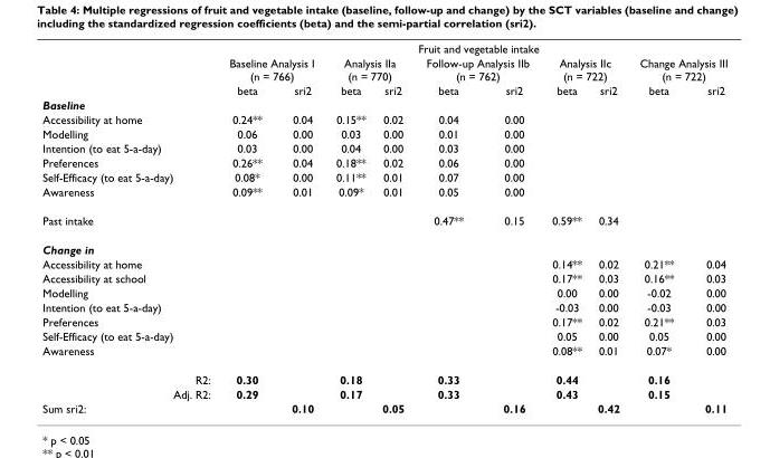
<table><thead><tr><td rowspan="3"></td><td colspan="10">Fruit and vegetable intake</td></tr><tr><td colspan="2">Baseline Analysis I (n = 766)</td><td colspan="2">Analysis IIa (n = 770)</td><td colspan="2">Follow-up Analysis IIb (n = 762)</td><td colspan="2">Analysis IIc (n = 722)</td><td colspan="2">Change Analysis III (n = 722)</td></tr><tr><td>beta</td><td>sri2</td><td>beta</td><td>sri2</td><td>beta</td><td>sri2</td><td>beta</td><td>sri2</td><td>beta</td><td>sri2</td></tr></thead><tbody><tr><td colspan="11">Baseline</td></tr><tr><td>Accessibility at home</td><td>0.24**</td><td>0.04</td><td>0.15**</td><td>0.02</td><td>0.04</td><td>0.00</td><td></td><td></td><td></td><td></td></tr><tr><td>Modelling</td><td>0.06</td><td>0.00</td><td>0.03</td><td>0.00</td><td>0.01</td><td>0.00</td><td></td><td></td><td></td><td></td></tr><tr><td>Intention (to eat 5-a-day)</td><td>0.03</td><td>0.00</td><td>0.04</td><td>0.00</td><td>0.03</td><td>0.00</td><td></td><td></td><td></td><td></td></tr><tr><td>Preferences</td><td>0.26**</td><td>0.04</td><td>0.18**</td><td>0.02</td><td>0.06</td><td>0.00</td><td></td><td></td><td></td><td></td></tr><tr><td>Self-Efficacy (to eat 5-a-day)</td><td>0.08*</td><td>0.00</td><td>0.11**</td><td>0.01</td><td>0.07</td><td>0.00</td><td></td><td></td><td></td><td></td></tr><tr><td>Awareness</td><td>0.09**</td><td>0.01</td><td>0.09*</td><td>0.01</td><td>0.05</td><td>0.00</td><td></td><td></td><td></td><td></td></tr><tr><td>Past intake</td><td></td><td></td><td></td><td></td><td>0.47**</td><td>0.15</td><td>0.59**</td><td>0.34</td><td></td><td></td></tr><tr><td colspan="11">Change in</td></tr><tr><td>Accessibility at home</td><td></td><td></td><td></td><td></td><td></td><td></td><td>0.14**</td><td>0.02</td><td>0.21**</td><td>0.04</td></tr><tr><td>Accessibility at school</td><td></td><td></td><td></td><td></td><td></td><td></td><td>0.17**</td><td>0.03</td><td>0.16**</td><td>0.03</td></tr><tr><td>Modelling</td><td></td><td></td><td></td><td></td><td></td><td></td><td>0.00</td><td>0.00</td><td>-0.02</td><td>0.00</td></tr><tr><td>Intention (to eat 5-a-day)</td><td></td><td></td><td></td><td></td><td></td><td></td><td>-0.03</td><td>0.00</td><td>-0.03</td><td>0.00</td></tr><tr><td>Preferences</td><td></td><td></td><td></td><td></td><td></td><td></td><td>0.17**</td><td>0.02</td><td>0.21**</td><td>0.03</td></tr><tr><td>Self-Efficacy (to eat 5-a-day)</td><td></td><td></td><td></td><td></td><td></td><td></td><td>0.05</td><td>0.00</td><td>0.05</td><td>0.00</td></tr><tr><td>Awareness</td><td></td><td></td><td></td><td></td><td></td><td></td><td>0.08**</td><td>0.01</td><td>0.07*</td><td>0.00</td></tr><tr><td>R2:</td><td>0.30</td><td></td><td>0.18</td><td></td><td>0.33</td><td></td><td>0.44</td><td></td><td>0.16</td><td></td></tr><tr><td>Adj. R2:</td><td>0.29</td><td></td><td>0.17</td><td></td><td>0.33</td><td></td><td>0.43</td><td></td><td>0.15</td><td></td></tr><tr><td>Sum sri2:</td><td></td><td>0.10</td><td></td><td>0.05</td><td></td><td>0.16</td><td></td><td>0.42</td><td></td><td>0.11</td></tr></tbody></table>